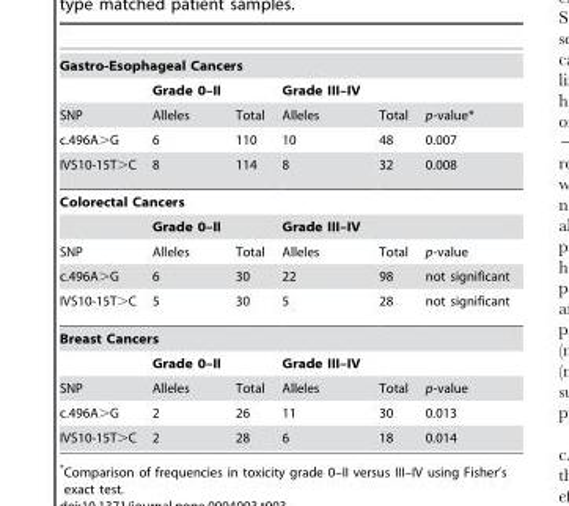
<table><tbody><tr><td colspan="6">Gastro-Esophageal Cancers</td></tr><tr><td></td><td colspan="2">Grade 0–II</td><td colspan="2">Grade III–IV</td><td></td></tr><tr><td>SNP</td><td>Alleles</td><td>Total</td><td>Alleles</td><td>Total</td><td>p-value*</td></tr><tr><td>c.496A&gt;G</td><td>6</td><td>110</td><td>10</td><td>48</td><td>0.007</td></tr><tr><td>IVS10-15T&gt;C</td><td>8</td><td>114</td><td>8</td><td>32</td><td>0.008</td></tr><tr><td colspan="6">Colorectal Cancers</td></tr><tr><td></td><td colspan="2">Grade 0–II</td><td colspan="2">Grade III–IV</td><td></td></tr><tr><td>SNP</td><td>Alleles</td><td>Total</td><td>Alleles</td><td>Total</td><td>p-value</td></tr><tr><td>c.496A&gt;G</td><td>6</td><td>30</td><td>22</td><td>98</td><td>not significant</td></tr><tr><td>IVS10-15T&gt;C</td><td>5</td><td>30</td><td>5</td><td>28</td><td>not significant</td></tr><tr><td colspan="6">Breast Cancers</td></tr><tr><td></td><td colspan="2">Grade 0–II</td><td colspan="2">Grade III–IV</td><td></td></tr><tr><td>SNP</td><td>Alleles</td><td>Total</td><td>Alleles</td><td>Total</td><td>p-value</td></tr><tr><td>c.496A&gt;G</td><td>2</td><td>26</td><td>11</td><td>30</td><td>0.013</td></tr><tr><td>IVS10-15T&gt;C</td><td>2</td><td>28</td><td>6</td><td>18</td><td>0.014</td></tr></tbody></table>